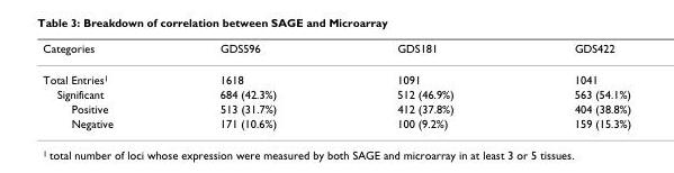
<table><thead><tr><td>Categories</td><td>GDS596</td><td>GDS181</td><td>GDS422</td></tr></thead><tbody><tr><td>Total Entries<sup>1</sup></td><td>1618</td><td>1091</td><td>1041</td></tr><tr><td>Significant</td><td>684 (42.3%)</td><td>512 (46.9%)</td><td>563 (54.1%)</td></tr><tr><td>Positive</td><td>513 (31.7%)</td><td>412 (37.8%)</td><td>404 (38.8%)</td></tr><tr><td>Negative</td><td>171 (10.6%)</td><td>100 (9.2%)</td><td>159 (15.3%)</td></tr></tbody></table>